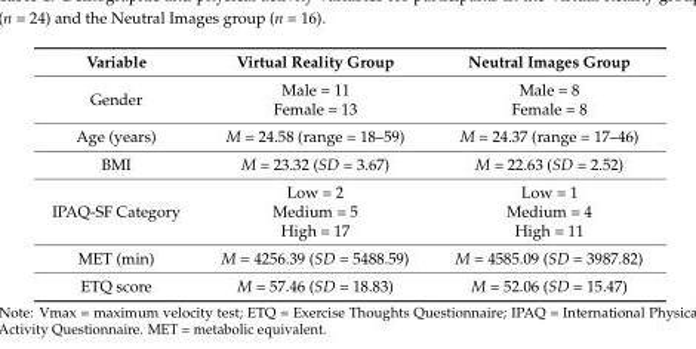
<table><thead><tr><td>Variable</td><td>Virtual Reality Group</td><td>Neutral Images Group</td></tr></thead><tbody><tr><td>Gender</td><td>Male = 11 Female = 13</td><td>Male = 8 Female = 8</td></tr><tr><td>Age (years)</td><td>M = 24.58 (range = 18–59)</td><td>M = 24.37 (range = 17–46)</td></tr><tr><td>BMI</td><td>M = 23.32 (SD = 3.67)</td><td>M = 22.63 (SD = 2.52)</td></tr><tr><td>IPAQ-SF Category</td><td>Low = 2 Medium = 5 High = 17</td><td>Low = 1 Medium = 4 High = 11</td></tr><tr><td>MET (min)</td><td>M = 4256.39 (SD = 5488.59)</td><td>M = 4585.09 (SD = 3987.82)</td></tr><tr><td>ETQ score</td><td>M = 57.46 (SD = 18.83)</td><td>M = 52.06 (SD = 15.47)</td></tr></tbody></table>